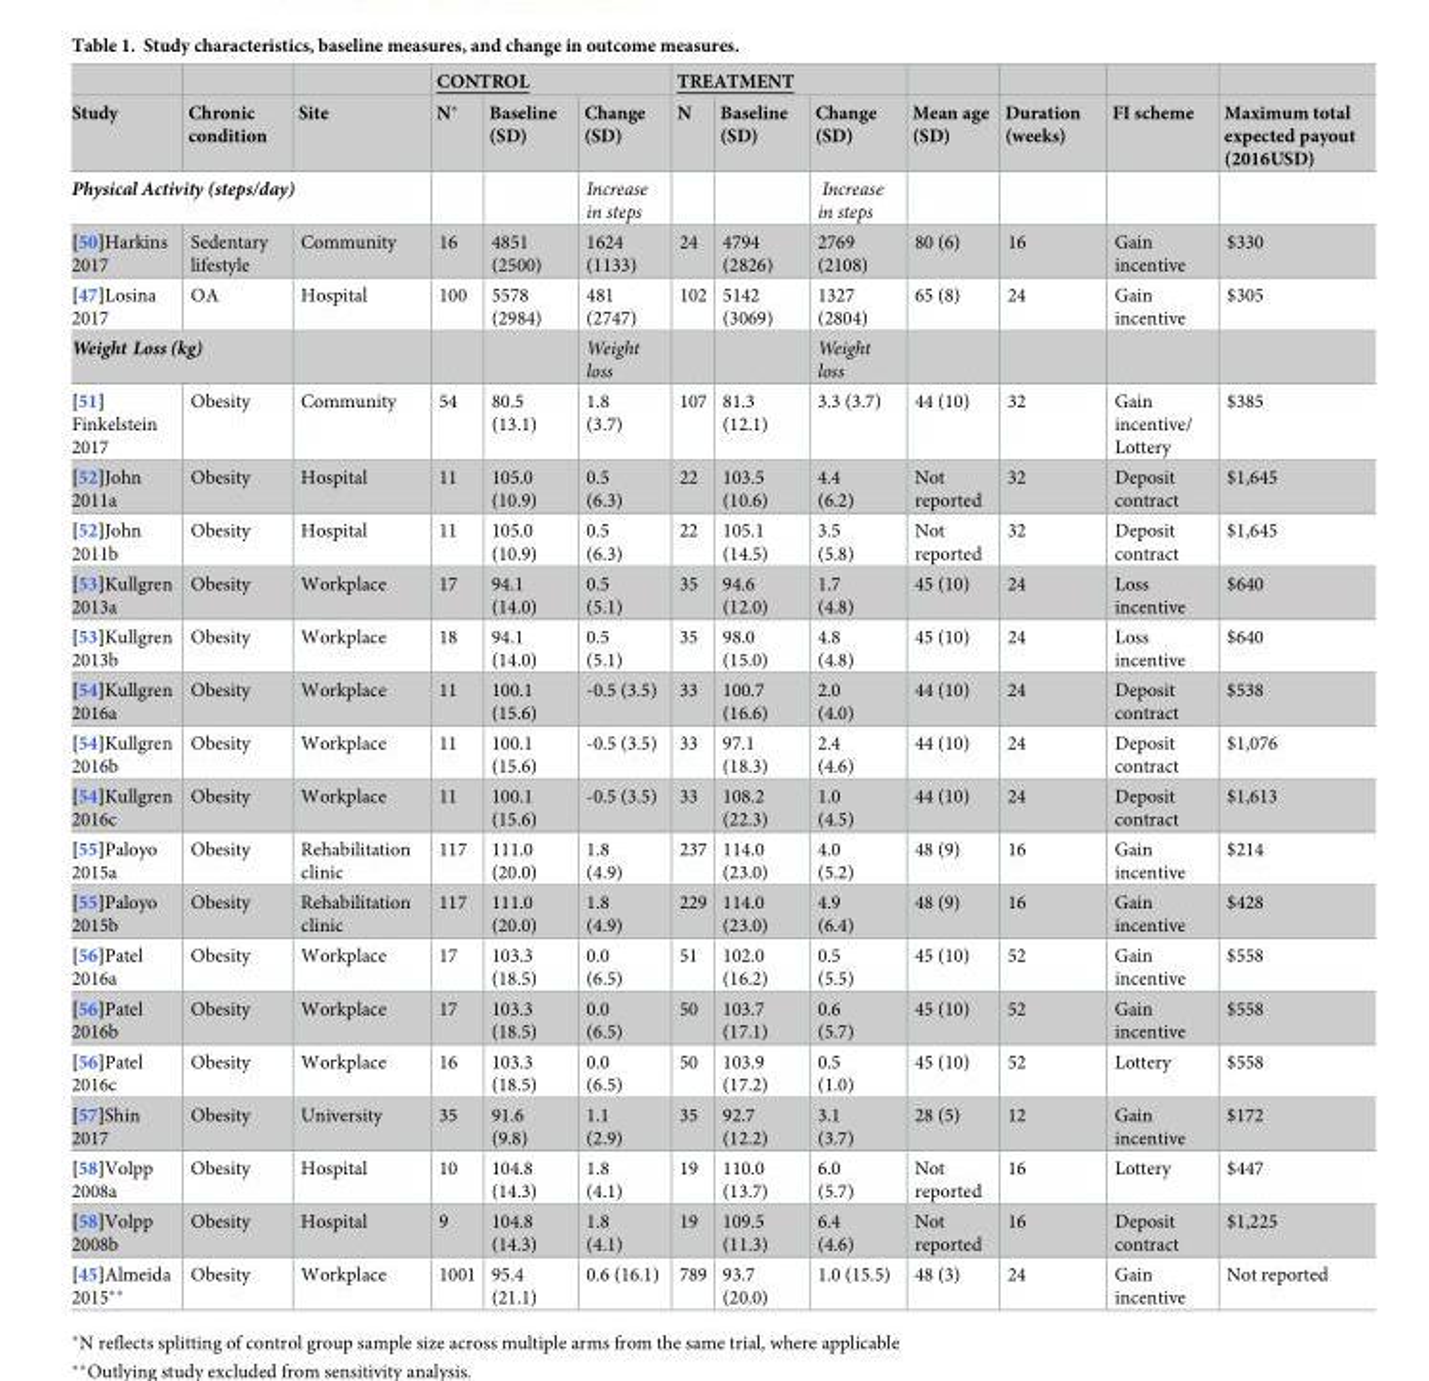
<table><thead><tr><td rowspan="2">Study</td><td rowspan="2">Chronic condition</td><td rowspan="2">Site</td><td colspan="3">CONTROL</td><td colspan="3">TREATMENT</td><td rowspan="2">Mean age (SD)</td><td rowspan="2">Duration (weeks)</td><td rowspan="2">FI scheme</td><td rowspan="2">Maximum total expected payout (2016USD)</td></tr><tr><td>N*</td><td>Baseline (SD)</td><td>Change (SD)</td><td>N</td><td>Baseline (SD)</td><td>Change (SD)</td></tr></thead><tbody><tr><td colspan="3">Physical Activity (steps/day)</td><td></td><td></td><td>Increase in steps</td><td></td><td></td><td>Increase in steps</td><td></td><td></td><td></td><td></td></tr><tr><td>[50]Harkins 2017</td><td>Sedentary lifestyle</td><td>Community</td><td>16</td><td>4851 (2500)</td><td>1624 (1133)</td><td>24</td><td>4794 (2826)</td><td>2769 (2108)</td><td>80 (6)</td><td>16</td><td>Gain incentive</td><td>$330</td></tr><tr><td>[47]Losina 2017</td><td>OA</td><td>Hospital</td><td>100</td><td>5578 (2984)</td><td>481 (2747)</td><td>102</td><td>5142 (3069)</td><td>1327 (2804)</td><td>65 (8)</td><td>24</td><td>Gain incentive</td><td>$305</td></tr><tr><td colspan="2">Weight Loss (kg)</td><td></td><td></td><td></td><td>Weight loss</td><td></td><td></td><td>Weight loss</td><td></td><td></td><td></td><td></td></tr><tr><td>[51] Finkelstein 2017</td><td>Obesity</td><td>Community</td><td>54</td><td>80.5 (13.1)</td><td>1.8 (3.7)</td><td>107</td><td>81.3 (12.1)</td><td>3.3 (3.7)</td><td>44 (10)</td><td>32</td><td>Gain incentive/ Lottery</td><td>$385</td></tr><tr><td>[52]John 2011a</td><td>Obesity</td><td>Hospital</td><td>11</td><td>105.0 (10.9)</td><td>0.5 (6.3)</td><td>22</td><td>103.5 (10.6)</td><td>4.4 (6.2)</td><td>Not reported</td><td>32</td><td>Deposit contract</td><td>$1,645</td></tr><tr><td>[52]John 2011b</td><td>Obesity</td><td>Hospital</td><td>11</td><td>105.0 (10.9)</td><td>0.5 (6.3)</td><td>22</td><td>105.1 (14.5)</td><td>3.5 (5.8)</td><td>Not reported</td><td>32</td><td>Deposit contract</td><td>$1,645</td></tr><tr><td>[53]Kullgren 2013a</td><td>Obesity</td><td>Workplace</td><td>17</td><td>94.1 (14.0)</td><td>0.5 (5.1)</td><td>35</td><td>94.6 (12.0)</td><td>1.7 (4.8)</td><td>45 (10)</td><td>24</td><td>Loss incentive</td><td>$640</td></tr><tr><td>[53]Kullgren 2013b</td><td>Obesity</td><td>Workplace</td><td>18</td><td>94.1 (14.0)</td><td>0.5 (5.1)</td><td>35</td><td>98.0 (15.0)</td><td>4.8 (4.8)</td><td>45 (10)</td><td>24</td><td>Loss incentive</td><td>$640</td></tr><tr><td>[54]Kullgren 2016a</td><td>Obesity</td><td>Workplace</td><td>11</td><td>100.1 (15.6)</td><td>-0.5 (3.5)</td><td>33</td><td>100.7 (16.6)</td><td>2.0 (4.0)</td><td>44 (10)</td><td>24</td><td>Deposit contract</td><td>$538</td></tr><tr><td>[54]Kullgren 2016b</td><td>Obesity</td><td>Workplace</td><td>11</td><td>100.1 (15.6)</td><td>-0.5 (3.5)</td><td>33</td><td>97.1 (18.3)</td><td>2.4 (4.6)</td><td>44 (10)</td><td>24</td><td>Deposit contract</td><td>$1,076</td></tr><tr><td>[54]Kullgren 2016c</td><td>Obesity</td><td>Workplace</td><td>11</td><td>100.1 (15.6)</td><td>-0.5 (3.5)</td><td>33</td><td>108.2 (22.3)</td><td>1.0 (4.5)</td><td>44 (10)</td><td>24</td><td>Deposit contract</td><td>$1,613</td></tr><tr><td>[55]Paloyo 2015a</td><td>Obesity</td><td>Rehabilitation clinic</td><td>117</td><td>111.0 (20.0)</td><td>1.8 (4.9)</td><td>237</td><td>114.0 (23.0)</td><td>4.0 (5.2)</td><td>48 (9)</td><td>16</td><td>Gain incentive</td><td>$214</td></tr><tr><td>[55]Paloyo 2015b</td><td>Obesity</td><td>Rehabilitation clinic</td><td>117</td><td>111.0 (20.0)</td><td>1.8 (4.9)</td><td>229</td><td>114.0 (23.0)</td><td>4.9 (6.4)</td><td>48 (9)</td><td>16</td><td>Gain incentive</td><td>$428</td></tr><tr><td>[56]Patel 2016a</td><td>Obesity</td><td>Workplace</td><td>17</td><td>103.3 (18.5)</td><td>0.0 (6.5)</td><td>51</td><td>102.0 (16.2)</td><td>0.5 (5.5)</td><td>45 (10)</td><td>52</td><td>Gain incentive</td><td>$558</td></tr><tr><td>[56]Patel 2016b</td><td>Obesity</td><td>Workplace</td><td>17</td><td>103.3 (18.5)</td><td>0.0 (6.5)</td><td>50</td><td>103.7 (17.1)</td><td>0.6 (5.7)</td><td>45 (10)</td><td>52</td><td>Gain incentive</td><td>$558</td></tr><tr><td>[56]Patel 2016c</td><td>Obesity</td><td>Workplace</td><td>16</td><td>103.3 (18.5)</td><td>0.0 (6.5)</td><td>50</td><td>103.9 (17.2)</td><td>0.5 (1.0)</td><td>45 (10)</td><td>52</td><td>Lottery</td><td>$558</td></tr><tr><td>[57]Shin 2017</td><td>Obesity</td><td>University</td><td>35</td><td>91.6 (9.8)</td><td>1.1 (2.9)</td><td>35</td><td>92.7 (12.2)</td><td>3.1 (3.7)</td><td>28 (5)</td><td>12</td><td>Gain incentive</td><td>$172</td></tr><tr><td>[58]Volpp 2008a</td><td>Obesity</td><td>Hospital</td><td>10</td><td>104.8 (14.3)</td><td>1.8 (4.1)</td><td>19</td><td>110.0 (13.7)</td><td>6.0 (5.7)</td><td>Not reported</td><td>16</td><td>Lottery</td><td>$447</td></tr><tr><td>[58]Volpp 2008b</td><td>Obesity</td><td>Hospital</td><td>9</td><td>104.8 (14.3)</td><td>1.8 (4.1)</td><td>19</td><td>109.5 (11.3)</td><td>6.4 (4.6)</td><td>Not reported</td><td>16</td><td>Deposit contract</td><td>$1,225</td></tr><tr><td>[45]Almeida 2015**</td><td>Obesity</td><td>Workplace</td><td>1001</td><td>95.4 (21.1)</td><td>0.6 (16.1)</td><td>789</td><td>93.7 (20.0)</td><td>1.0 (15.5)</td><td>48 (3)</td><td>24</td><td>Gain incentive</td><td>Not reported</td></tr></tbody></table>